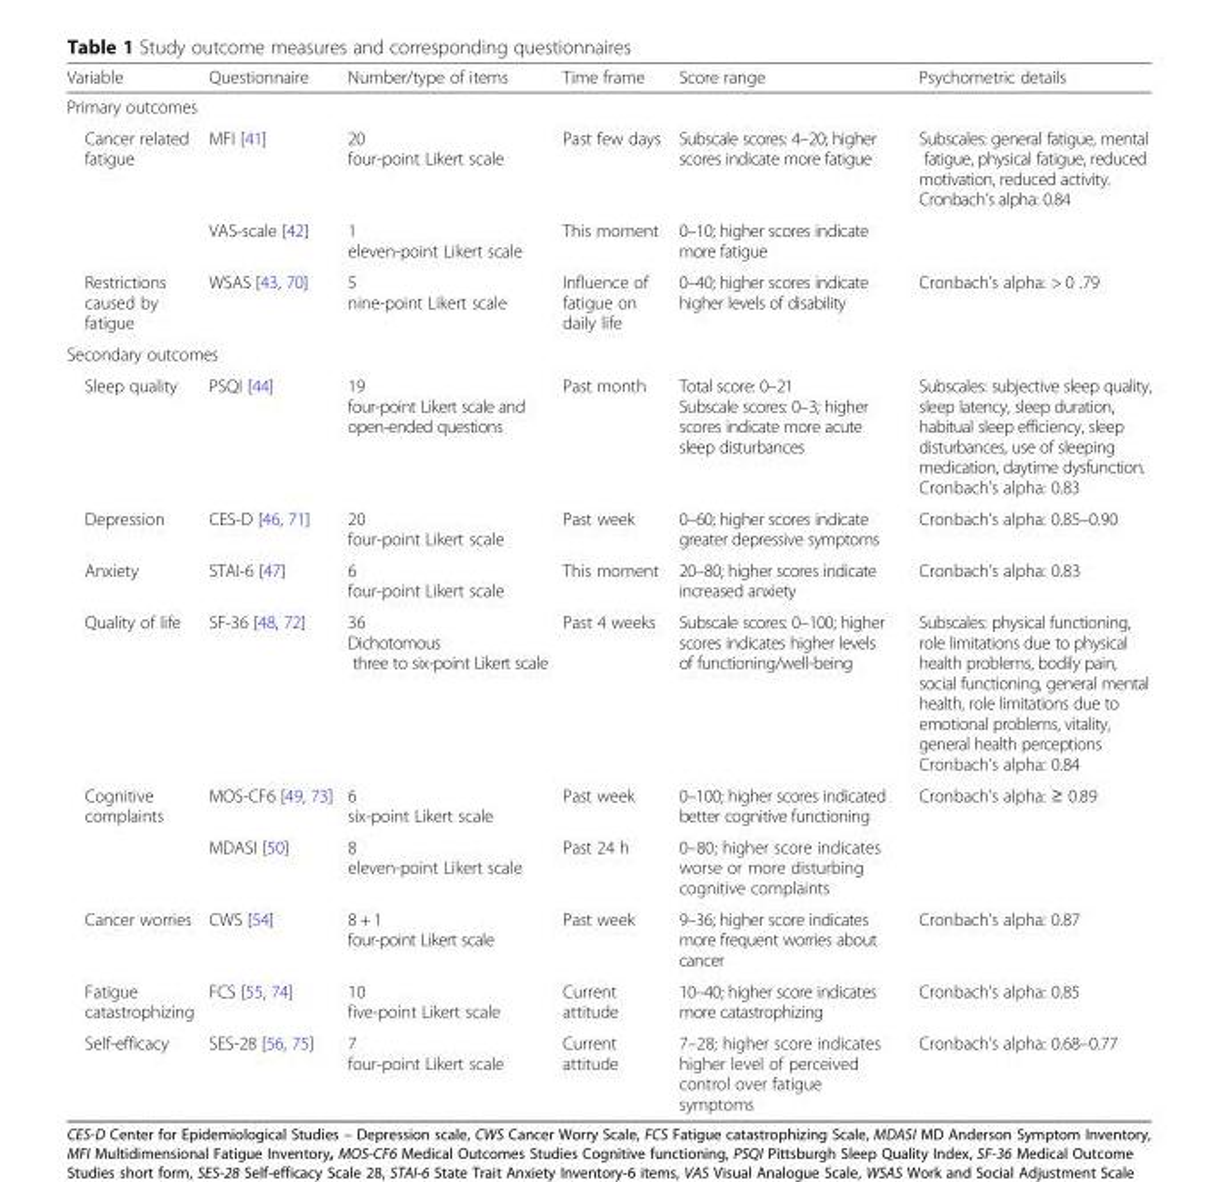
<table><thead><tr><td>Variable</td><td>Questionnaire</td><td>Number/type of items</td><td>Time frame</td><td>Score range</td><td>Psychometric details</td></tr></thead><tbody><tr><td colspan="6">Primary outcomes</td></tr><tr><td rowspan="2">Cancer related fatigue</td><td>MFI [41]</td><td>20 four-point Likert scale</td><td>Past few days</td><td>Subscale scores: 4–20; higher scores indicate more fatigue</td><td>Subscales: general fatigue, mental fatigue, physical fatigue, reduced motivation, reduced activity. Cronbach’s alpha: 0.84</td></tr><tr><td>VAS-scale [42]</td><td>1 eleven-point Likert scale</td><td>This moment</td><td>0–10; higher scores indicate more fatigue</td><td></td></tr><tr><td>Restrictions caused by fatigue</td><td>WSAS [43, 70]</td><td>5 nine-point Likert scale</td><td>Influence of fatigue on daily life</td><td>0–40; higher scores indicate higher levels of disability</td><td>Cronbach’s alpha: &gt; 0 .79</td></tr><tr><td colspan="6">Secondary outcomes</td></tr><tr><td>Sleep quality</td><td>PSQI [44]</td><td>19 four-point Likert scale and open-ended questions</td><td>Past month</td><td>Total score: 0–21 Subscale scores: 0–3; higher scores indicate more acute sleep disturbances</td><td>Subscales: subjective sleep quality, sleep latency, sleep duration, habitual sleep efficiency, sleep disturbances, use of sleeping medication, daytime dysfunction. Cronbach’s alpha: 0.83</td></tr><tr><td>Depression</td><td>CES-D [46, 71]</td><td>20 four-point Likert scale</td><td>Past week</td><td>0–60; higher scores indicate greater depressive symptoms</td><td>Cronbach’s alpha: 0.85–0.90</td></tr><tr><td>Anxiety</td><td>STAI-6 [47]</td><td>6 four-point Likert scale</td><td>This moment</td><td>20–80; higher scores indicate increased anxiety</td><td>Cronbach’s alpha: 0.83</td></tr><tr><td>Quality of life</td><td>SF-36 [48, 72]</td><td>36 Dichotomous three to six-point Likert scale</td><td>Past 4 weeks</td><td>Subscale scores: 0–100; higher scores indicates higher levels of functioning/well-being</td><td>Subscales: physical functioning, role limitations due to physical health problems, bodily pain, social functioning, general mental health, role limitations due to emotional problems, vitality, general health perceptions Cronbach’s alpha: 0.84</td></tr><tr><td rowspan="2">Cognitive complaints</td><td>MOS-CF6 [49, 73]</td><td>6 six-point Likert scale</td><td>Past week</td><td>0–100; higher scores indicated better cognitive functioning</td><td>Cronbach’s alpha: ≥ 0.89</td></tr><tr><td>MDASI [50]</td><td>8 eleven-point Likert scale</td><td>Past 24 h</td><td>0–80; higher score indicates worse or more disturbing cognitive complaints</td><td></td></tr><tr><td>Cancer worries</td><td>CWS [54]</td><td>8 + 1 four-point Likert scale</td><td>Past week</td><td>9–36; higher score indicates more frequent worries about cancer</td><td>Cronbach’s alpha: 0.87</td></tr><tr><td>Fatigue catastrophizing</td><td>FCS [55, 74]</td><td>10 five-point Likert scale</td><td>Current attitude</td><td>10–40; higher score indicates more catastrophizing</td><td>Cronbach’s alpha: 0.85</td></tr><tr><td>Self-efficacy</td><td>SES-28 [56, 75]</td><td>7 four-point Likert scale</td><td>Current attitude</td><td>7–28; higher score indicates higher level of perceived control over fatigue symptoms</td><td>Cronbach’s alpha: 0.68–0.77</td></tr></tbody></table>